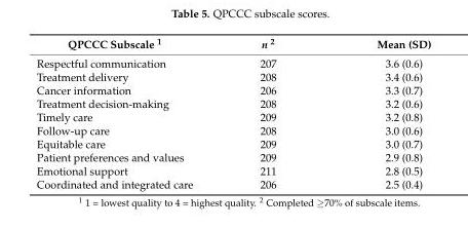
<table><thead><tr><td>QPCCC Subscale <sup>1</sup></td><td>n <sup>2</sup></td><td>Mean (SD)</td></tr></thead><tbody><tr><td>Respectful communication</td><td>207</td><td>3.6 (0.6)</td></tr><tr><td>Treatment delivery</td><td>208</td><td>3.4 (0.6)</td></tr><tr><td>Cancer information</td><td>206</td><td>3.3 (0.7)</td></tr><tr><td>Treatment decision-making</td><td>208</td><td>3.2 (0.6)</td></tr><tr><td>Timely care</td><td>209</td><td>3.2 (0.8)</td></tr><tr><td>Follow-up care</td><td>208</td><td>3.0 (0.6)</td></tr><tr><td>Equitable care</td><td>209</td><td>3.0 (0.7)</td></tr><tr><td>Patient preferences and values</td><td>209</td><td>2.9 (0.8)</td></tr><tr><td>Emotional support</td><td>211</td><td>2.8 (0.5)</td></tr><tr><td>Coordinated and integrated care</td><td>206</td><td>2.5 (0.4)</td></tr></tbody></table>